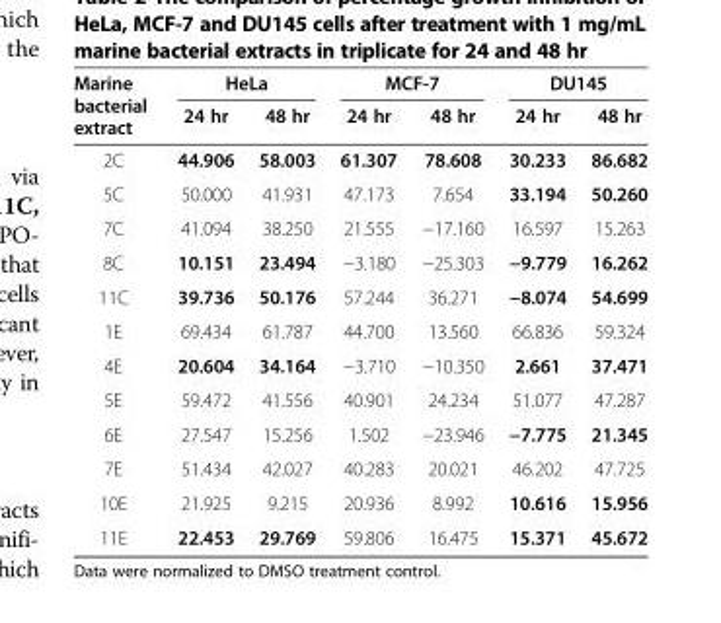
<table><thead><tr><td rowspan="2">Marine bacterial extract</td><td colspan="2">HeLa</td><td colspan="2">MCF-7</td><td colspan="2">DU145</td></tr><tr><td>24 hr</td><td>48 hr</td><td>24 hr</td><td>48 hr</td><td>24 hr</td><td>48 hr</td></tr></thead><tbody><tr><td>2C</td><td>44.906</td><td>58.003</td><td>61.307</td><td>78.608</td><td>30.233</td><td>86.682</td></tr><tr><td>5C</td><td>50.000</td><td>41.931</td><td>47.173</td><td>7.654</td><td>33.194</td><td>50.260</td></tr><tr><td>7C</td><td>41.094</td><td>38.250</td><td>21.555</td><td>−17.160</td><td>16.597</td><td>15.263</td></tr><tr><td>8C</td><td>10.151</td><td>23.494</td><td>−3.180</td><td>−25.303</td><td>−9.779</td><td>16.262</td></tr><tr><td>11C</td><td>39.736</td><td>50.176</td><td>57.244</td><td>36.271</td><td>−8.074</td><td>54.699</td></tr><tr><td>1E</td><td>69.434</td><td>61.787</td><td>44.700</td><td>13.560</td><td>66.836</td><td>59.324</td></tr><tr><td>4E</td><td>20.604</td><td>34.164</td><td>−3.710</td><td>−10.350</td><td>2.661</td><td>37.471</td></tr><tr><td>5E</td><td>59.472</td><td>41.556</td><td>40.901</td><td>24.234</td><td>51.077</td><td>47.287</td></tr><tr><td>6E</td><td>27.547</td><td>15.256</td><td>1.502</td><td>−23.946</td><td>−7.775</td><td>21.345</td></tr><tr><td>7E</td><td>51.434</td><td>42.027</td><td>40.283</td><td>20.021</td><td>46.202</td><td>47.725</td></tr><tr><td>10E</td><td>21.925</td><td>9.215</td><td>20.936</td><td>8.992</td><td>10.616</td><td>15.956</td></tr><tr><td>11E</td><td>22.453</td><td>29.769</td><td>59.806</td><td>16.475</td><td>15.371</td><td>45.672</td></tr></tbody></table>